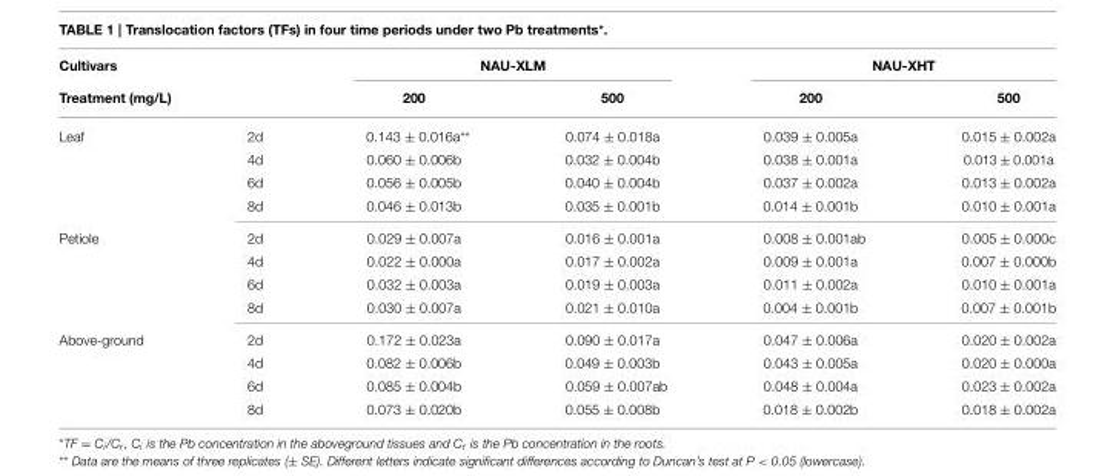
<table><thead><tr><td rowspan="2" colspan="2">Cultivars Treatment (mg/L)</td><td colspan="2">NAU-XLM</td><td colspan="2">NAU-XHT</td></tr><tr><td rowspan="2">200 0.143 ± 0.016a**</td><td rowspan="2">500 0.074 ± 0.018a</td><td rowspan="2">200 0.039 ± 0.005a</td><td rowspan="2">500 0.015 ± 0.002a</td></tr><tr><td>Leaf</td><td>2d</td></tr></thead><tbody><tr><td></td><td>4d</td><td>0.060 ± 0.006b</td><td>0.032 ± 0.004b</td><td>0.038 ± 0.001a</td><td>0.013 ± 0.001a</td></tr><tr><td></td><td>6d</td><td>0.056 ± 0.005b</td><td>0.040 ± 0.004b</td><td>0.037 ± 0.002a</td><td>0.013 ± 0.002a</td></tr><tr><td></td><td>8d</td><td>0.046 ± 0.013b</td><td>0.035 ± 0.001b</td><td>0.014 ± 0.001b</td><td>0.010 ± 0.001a</td></tr><tr><td rowspan="4">Petiole</td><td>2d</td><td>0.029 ± 0.007a</td><td>0.016 ± 0.001a</td><td>0.008 ± 0.001ab</td><td>0.005 ± 0.000c</td></tr><tr><td>4d</td><td>0.022 ± 0.000a</td><td>0.017 ± 0.002a</td><td>0.009 ± 0.001a</td><td>0.007 ± 0.000b</td></tr><tr><td>6d</td><td>0.032 ± 0.003a</td><td>0.019 ± 0.003a</td><td>0.011 ± 0.002a</td><td>0.010 ± 0.001a</td></tr><tr><td>8d</td><td>0.030 ± 0.007a</td><td>0.021 ± 0.010a</td><td>0.004 ± 0.001b</td><td>0.007 ± 0.001b</td></tr><tr><td rowspan="4">Above-ground</td><td>2d</td><td>0.172 ± 0.023a</td><td>0.090 ± 0.017a</td><td>0.047 ± 0.006a</td><td>0.020 ± 0.002a</td></tr><tr><td>4d</td><td>0.082 ± 0.006b</td><td>0.049 ± 0.003b</td><td>0.043 ± 0.005a</td><td>0.020 ± 0.000a</td></tr><tr><td>6d</td><td>0.085 ± 0.004b</td><td>0.059 ± 0.007ab</td><td>0.048 ± 0.004a</td><td>0.023 ± 0.002a</td></tr><tr><td>8d</td><td>0.073 ± 0.020b</td><td>0.055 ± 0.008b</td><td>0.018 ± 0.002b</td><td>0.018 ± 0.002a</td></tr></tbody></table>